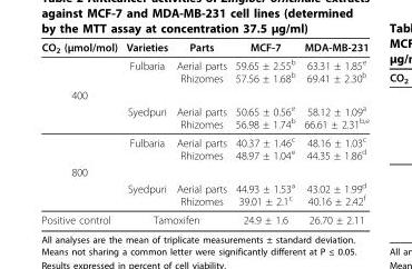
<table><thead><tr><td>CO2 (μmol/mol)</td><td>Varieties</td><td>Parts</td><td>MCF-7</td><td>MDA-MB-231</td></tr></thead><tbody><tr><td></td><td>Fulbaria</td><td>Aerial parts Rhizomes</td><td>59.65 ± 2.55b 57.56 ± 1.68b</td><td>63.31 ± 1.85e 69.41 ± 2.30b</td></tr><tr><td colspan="5">400</td></tr><tr><td></td><td>Syedpuri</td><td>Aerial parts Rhizomes</td><td>50.65 ± 0.56e 56.98 ± 1.74b</td><td>58.12 ± 1.09a 66.61 ± 2.31b,e</td></tr><tr><td></td><td>Fulbaria</td><td>Aerial parts Rhizomes</td><td>40.37 ± 1.46c 48.97 ± 1.04e</td><td>48.16 ± 1.03c 44.35 ± 1.86d</td></tr><tr><td colspan="5">800</td></tr><tr><td></td><td>Syedpuri</td><td>Aerial parts Rhizomes</td><td>44.93 ± 1.53a 39.01 ± 2.1c</td><td>43.02 ± 1.99d 40.16 ± 2.42f</td></tr><tr><td>Positive control</td><td colspan="2">Tamoxifen</td><td>24.9 ± 1.6</td><td>26.70 ± 2.11</td></tr></tbody></table>